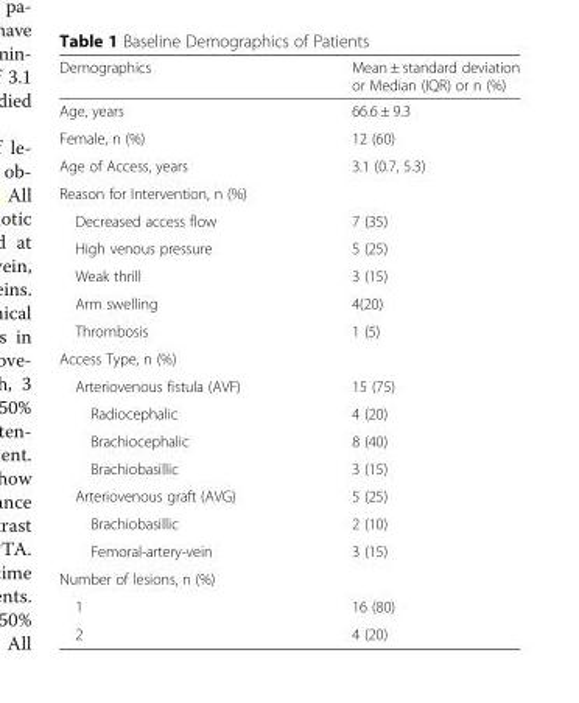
<table><thead><tr><td>Demographics</td><td>Mean ± standard deviation or Median (IQR) or n (%)</td></tr></thead><tbody><tr><td>Age, years</td><td>66.6 ± 9.3</td></tr><tr><td>Female, n (%)</td><td>12 (60)</td></tr><tr><td>Age of Access, years</td><td>3.1 (0.7, 5.3)</td></tr><tr><td colspan="2">Reason for Intervention, n (%)</td></tr><tr><td>Decreased access flow</td><td>7 (35)</td></tr><tr><td>High venous pressure</td><td>5 (25)</td></tr><tr><td>Weak thrill</td><td>3 (15)</td></tr><tr><td>Arm swelling</td><td>4(20)</td></tr><tr><td>Thrombosis</td><td>1 (5)</td></tr><tr><td colspan="2">Access Type, n (%)</td></tr><tr><td>Arteriovenous fistula (AVF)</td><td>15 (75)</td></tr><tr><td>Radiocephalic</td><td>4 (20)</td></tr><tr><td>Brachiocephalic</td><td>8 (40)</td></tr><tr><td>Brachiobasillic</td><td>3 (15)</td></tr><tr><td>Arteriovenous graft (AVG)</td><td>5 (25)</td></tr><tr><td>Brachiobasillic</td><td>2 (10)</td></tr><tr><td>Femoral-artery-vein</td><td>3 (15)</td></tr><tr><td colspan="2">Number of lesions, n (%)</td></tr><tr><td>1</td><td>16 (80)</td></tr><tr><td>2</td><td>4 (20)</td></tr></tbody></table>